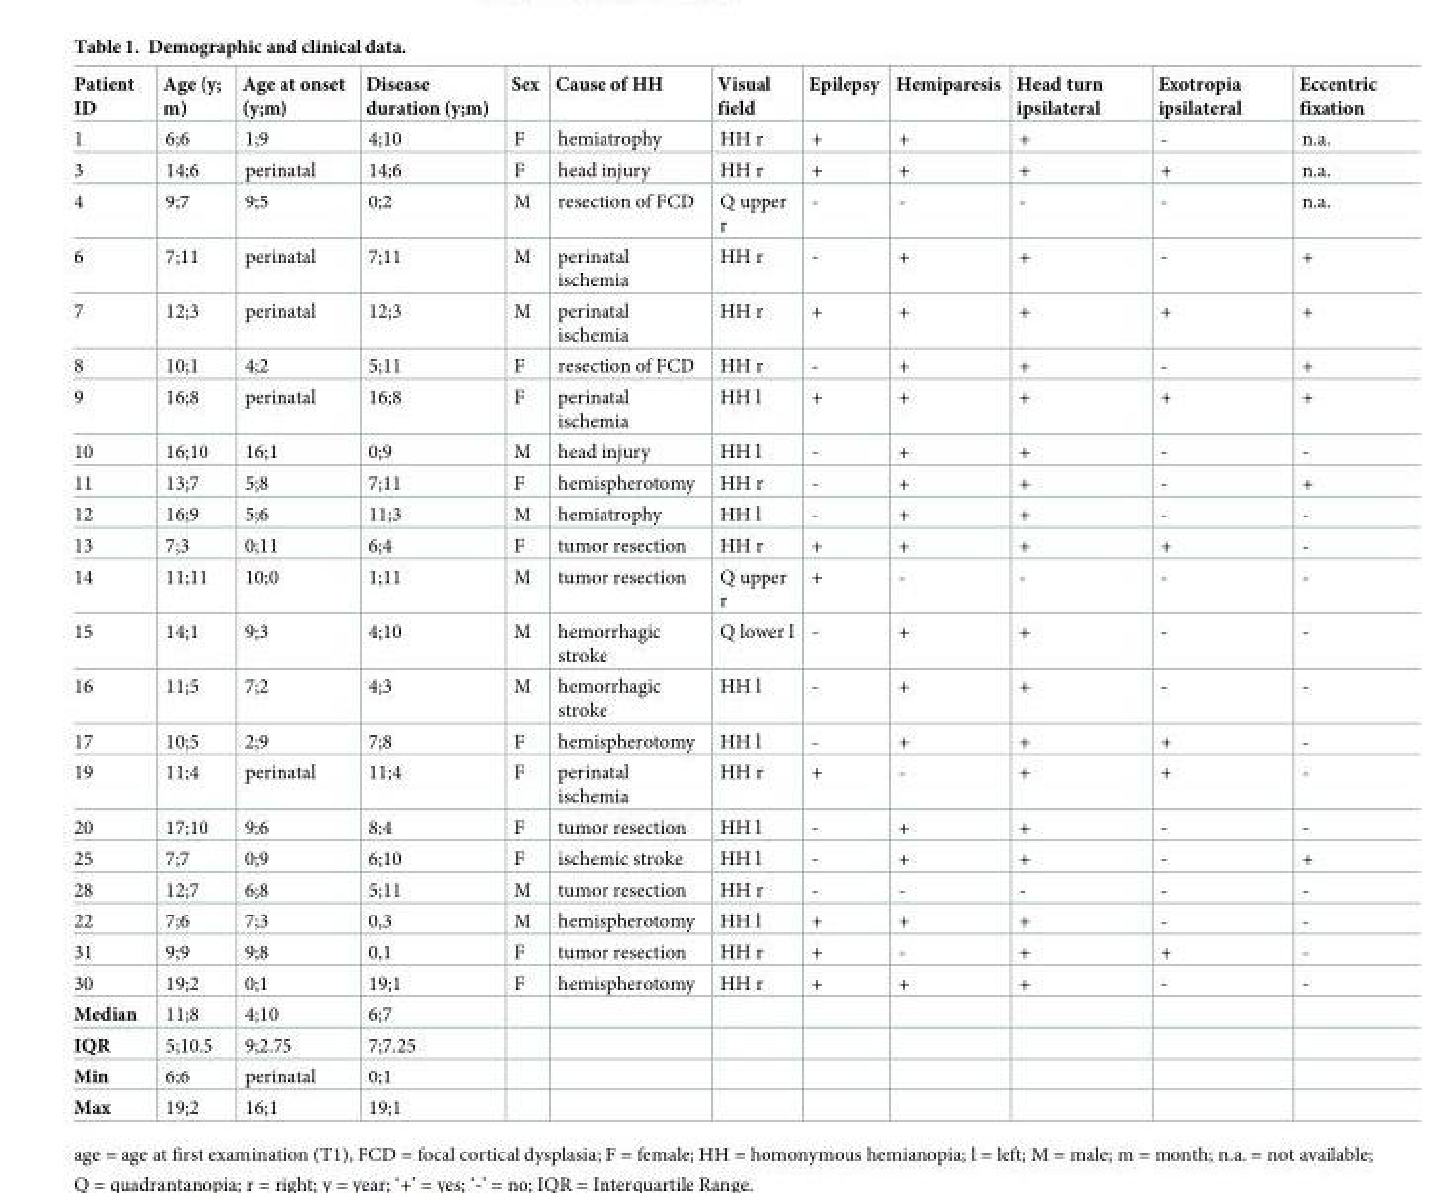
<table><thead><tr><td>Patient ID</td><td>Age (y; m)</td><td>Age at onset (y;m)</td><td>Disease duration (y;m)</td><td>Sex</td><td>Cause of HH</td><td>Visual field</td><td>Epilepsy</td><td>Hemiparesis</td><td>Head turn ipsilateral</td><td>Exotropia ipsilateral</td><td>Eccentric fixation</td></tr></thead><tbody><tr><td>1</td><td>6;6</td><td>1;9</td><td>4;10</td><td>F</td><td>hemiatrophy</td><td>HH r</td><td>+</td><td>+</td><td>+</td><td>-</td><td>n.a.</td></tr><tr><td>3</td><td>14;6</td><td>perinatal</td><td>14;6</td><td>F</td><td>head injury</td><td>HH r</td><td>+</td><td>+</td><td>+</td><td>+</td><td>n.a.</td></tr><tr><td>4</td><td>9;7</td><td>9;5</td><td>0;2</td><td>M</td><td>resection of FCD</td><td>Q upper r</td><td>-</td><td>-</td><td>-</td><td>-</td><td>n.a.</td></tr><tr><td>6</td><td>7;11</td><td>perinatal</td><td>7;11</td><td>M</td><td>perinatal ischemia</td><td>HH r</td><td>-</td><td>+</td><td>+</td><td>-</td><td>+</td></tr><tr><td>7</td><td>12;3</td><td>perinatal</td><td>12;3</td><td>M</td><td>perinatal ischemia</td><td>HH r</td><td>+</td><td>+</td><td>+</td><td>+</td><td>+</td></tr><tr><td>8</td><td>10;1</td><td>4;2</td><td>5;11</td><td>F</td><td>resection of FCD</td><td>HH r</td><td>-</td><td>+</td><td>+</td><td>-</td><td>+</td></tr><tr><td>9</td><td>16;8</td><td>perinatal</td><td>16;8</td><td>F</td><td>perinatal ischemia</td><td>HH l</td><td>+</td><td>+</td><td>+</td><td>+</td><td>+</td></tr><tr><td>10</td><td>16;10</td><td>16;1</td><td>0;9</td><td>M</td><td>head injury</td><td>HH l</td><td>-</td><td>+</td><td>+</td><td>-</td><td>-</td></tr><tr><td>11</td><td>13;7</td><td>5;8</td><td>7;11</td><td>F</td><td>hemispherotomy</td><td>HH r</td><td>-</td><td>+</td><td>+</td><td>-</td><td>+</td></tr><tr><td>12</td><td>16;9</td><td>5;6</td><td>11;3</td><td>M</td><td>hemiatrophy</td><td>HH l</td><td>-</td><td>+</td><td>+</td><td>-</td><td>-</td></tr><tr><td>13</td><td>7;3</td><td>0;11</td><td>6;4</td><td>F</td><td>tumor resection</td><td>HH r</td><td>+</td><td>+</td><td>+</td><td>+</td><td>-</td></tr><tr><td>14</td><td>11;11</td><td>10;0</td><td>1;11</td><td>M</td><td>tumor resection</td><td>Q upper r</td><td>+</td><td>-</td><td>-</td><td>-</td><td>-</td></tr><tr><td>15</td><td>14;1</td><td>9;3</td><td>4;10</td><td>M</td><td>hemorrhagic stroke</td><td>Q lower l</td><td>-</td><td>+</td><td>+</td><td>-</td><td>-</td></tr><tr><td>16</td><td>11;5</td><td>7;2</td><td>4;3</td><td>M</td><td>hemorrhagic stroke</td><td>HH l</td><td>-</td><td>+</td><td>+</td><td>-</td><td>-</td></tr><tr><td>17</td><td>10;5</td><td>2;9</td><td>7;8</td><td>F</td><td>hemispherotomy</td><td>HH l</td><td>-</td><td>+</td><td>+</td><td>+</td><td>-</td></tr><tr><td>19</td><td>11;4</td><td>perinatal</td><td>11;4</td><td>F</td><td>perinatal ischemia</td><td>HH r</td><td>+</td><td>-</td><td>+</td><td>+</td><td>-</td></tr><tr><td>20</td><td>17;10</td><td>9;6</td><td>8;4</td><td>F</td><td>tumor resection</td><td>HH l</td><td>-</td><td>+</td><td>+</td><td>-</td><td>-</td></tr><tr><td>25</td><td>7;7</td><td>0;9</td><td>6;10</td><td>F</td><td>ischemic stroke</td><td>HH l</td><td>-</td><td>+</td><td>+</td><td>-</td><td>+</td></tr><tr><td>28</td><td>12;7</td><td>6;8</td><td>5;11</td><td>M</td><td>tumor resection</td><td>HH r</td><td>-</td><td>-</td><td>-</td><td>-</td><td>-</td></tr><tr><td>22</td><td>7;6</td><td>7;3</td><td>0,3</td><td>M</td><td>hemispherotomy</td><td>HH l</td><td>+</td><td>+</td><td>+</td><td>-</td><td>-</td></tr><tr><td>31</td><td>9;9</td><td>9;8</td><td>0,1</td><td>F</td><td>tumor resection</td><td>HH r</td><td>+</td><td>-</td><td>+</td><td>+</td><td>-</td></tr><tr><td>30</td><td>19;2</td><td>0;1</td><td>19;1</td><td>F</td><td>hemispherotomy</td><td>HH r</td><td>+</td><td>+</td><td>+</td><td>-</td><td>-</td></tr><tr><td>Median</td><td>11;8</td><td>4;10</td><td>6;7</td><td></td><td></td><td></td><td></td><td></td><td></td><td></td><td></td></tr><tr><td>IQR</td><td>5;10.5</td><td>9;2.75</td><td>7;7.25</td><td></td><td></td><td></td><td></td><td></td><td></td><td></td><td></td></tr><tr><td>Min</td><td>6;6</td><td>perinatal</td><td>0;1</td><td></td><td></td><td></td><td></td><td></td><td></td><td></td><td></td></tr><tr><td>Max</td><td>19;2</td><td>16;1</td><td>19;1</td><td></td><td></td><td></td><td></td><td></td><td></td><td></td><td></td></tr></tbody></table>